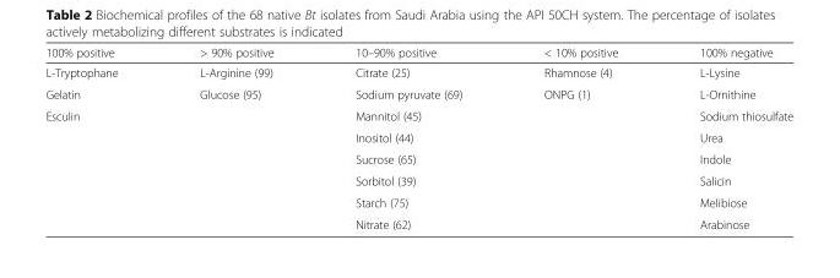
<table><thead><tr><td>100% positive</td><td>&gt; 90% positive</td><td>10–90% positive</td><td>&lt; 10% positive</td><td>100% negative</td></tr></thead><tbody><tr><td>L-Tryptophane</td><td>L-Arginine (99)</td><td>Citrate (25)</td><td>Rhamnose (4)</td><td>L-Lysine</td></tr><tr><td>Gelatin</td><td>Glucose (95)</td><td>Sodium pyruvate (69)</td><td>ONPG (1)</td><td>L-Ornithine</td></tr><tr><td rowspan="6">Esculin</td><td></td><td>Mannitol (45)</td><td></td><td>Sodium thiosulfate</td></tr><tr><td></td><td>Inositol (44)</td><td></td><td>Urea</td></tr><tr><td></td><td>Sucrose (65)</td><td></td><td>Indole</td></tr><tr><td></td><td>Sorbitol (39)</td><td></td><td>Salicin</td></tr><tr><td></td><td>Starch (75)</td><td></td><td>Melibiose</td></tr><tr><td></td><td>Nitrate (62)</td><td></td><td>Arabinose</td></tr></tbody></table>